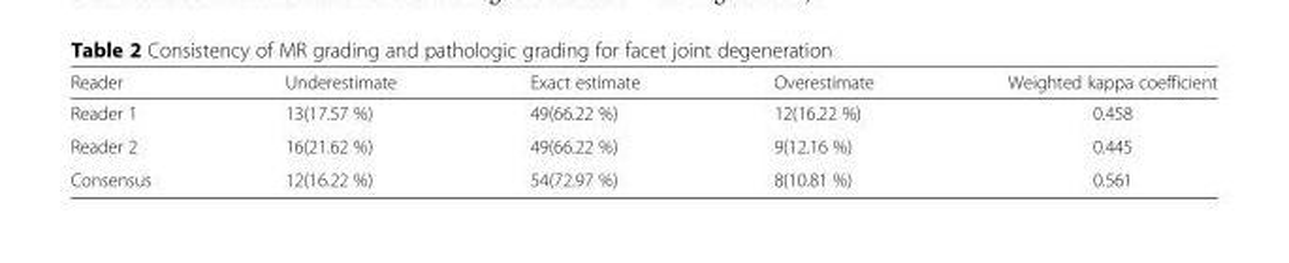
<table><thead><tr><td>Reader</td><td>Underestimate</td><td>Exact estimate</td><td>Overestimate</td><td>Weighted kappa coefficient</td></tr></thead><tbody><tr><td>Reader 1</td><td>13(17.57 %)</td><td>49(66.22 %)</td><td>12(16.22 %)</td><td>0.458</td></tr><tr><td>Reader 2</td><td>16(21.62 %)</td><td>49(66.22 %)</td><td>9(12.16 %)</td><td>0.445</td></tr><tr><td>Consensus</td><td>12(16.22 %)</td><td>54(72.97 %)</td><td>8(10.81 %)</td><td>0.561</td></tr></tbody></table>